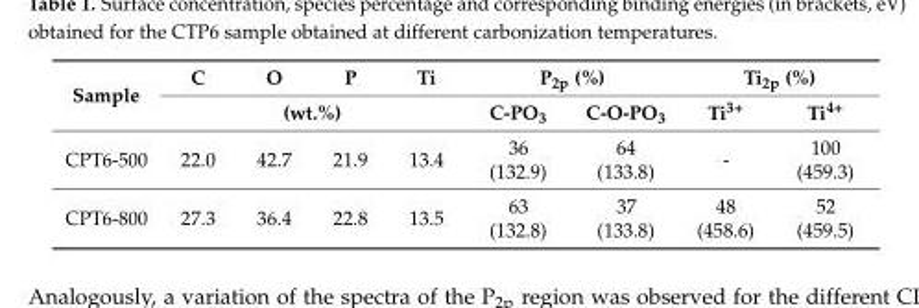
<table><thead><tr><td rowspan="2">Sample</td><td>C</td><td>O</td><td>P</td><td>Ti</td><td colspan="2">P<sub>2p</sub> (%)</td><td colspan="2">Ti<sub>2p</sub> (%)</td></tr><tr><td colspan="4">(wt.%)</td><td>C-PO<sub>3</sub></td><td>C-O-PO<sub>3</sub></td><td>Ti<sup>3+</sup></td><td>Ti<sup>4+</sup></td></tr></thead><tbody><tr><td>CPT6-500</td><td>22.0</td><td>42.7</td><td>21.9</td><td>13.4</td><td>36 (132.9)</td><td>64 (133.8)</td><td>-</td><td>100 (459.3)</td></tr><tr><td>CPT6-800</td><td>27.3</td><td>36.4</td><td>22.8</td><td>13.5</td><td>63 (132.8)</td><td>37 (133.8)</td><td>48 (458.6)</td><td>52 (459.5)</td></tr></tbody></table>